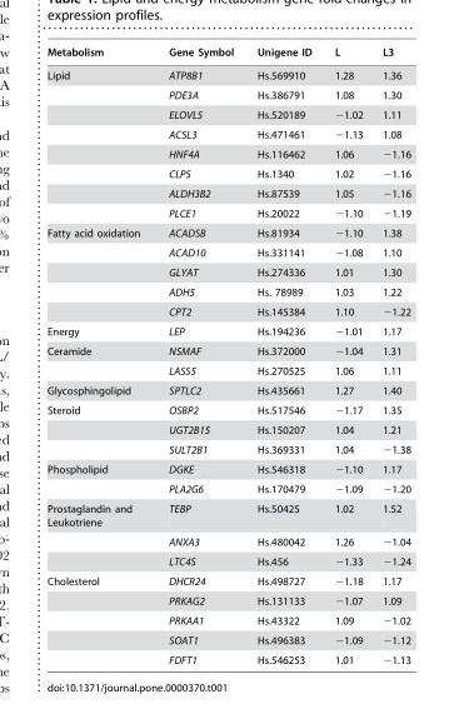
<table><thead><tr><td>Metabolism</td><td>Gene Symbol</td><td>Unigene ID</td><td>L</td><td>L3</td></tr></thead><tbody><tr><td rowspan="8">Lipid</td><td>ATP8B1</td><td>Hs.569910</td><td>1.28</td><td>1.36</td></tr><tr><td>PDE3A</td><td>Hs.386791</td><td>1.08</td><td>1.30</td></tr><tr><td>ELOVL5</td><td>Hs.520189</td><td>−1.02</td><td>1.11</td></tr><tr><td>ACSL3</td><td>Hs.471461</td><td>−1.13</td><td>1.08</td></tr><tr><td>HNF4A</td><td>Hs.116462</td><td>1.06</td><td>−1.16</td></tr><tr><td>CLPS</td><td>Hs.1340</td><td>1.02</td><td>−1.16</td></tr><tr><td>ALDH3B2</td><td>Hs.87539</td><td>1.05</td><td>−1.16</td></tr><tr><td>PLCE1</td><td>Hs.20022</td><td>−1.10</td><td>−1.19</td></tr><tr><td rowspan="5">Fatty acid oxidation</td><td>ACADSB</td><td>Hs.81934</td><td>−1.10</td><td>1.38</td></tr><tr><td>ACAD10</td><td>Hs.331141</td><td>−1.08</td><td>1.10</td></tr><tr><td>GLYAT</td><td>Hs.274336</td><td>1.01</td><td>1.30</td></tr><tr><td>ADH5</td><td>Hs. 78989</td><td>1.03</td><td>1.22</td></tr><tr><td>CPT2</td><td>Hs.145384</td><td>1.10</td><td>−1.22</td></tr><tr><td>Energy</td><td>LEP</td><td>Hs.194236</td><td>−1.01</td><td>1.17</td></tr><tr><td rowspan="2">Ceramide</td><td>NSMAF</td><td>Hs.372000</td><td>−1.04</td><td>1.31</td></tr><tr><td>LASS5</td><td>Hs.270525</td><td>1.06</td><td>1.11</td></tr><tr><td>Glycosphingolipid</td><td>SPTLC2</td><td>Hs.435661</td><td>1.27</td><td>1.40</td></tr><tr><td rowspan="3">Steroid</td><td>OSBP2</td><td>Hs.517546</td><td>−1.17</td><td>1.35</td></tr><tr><td>UGT2B15</td><td>Hs.150207</td><td>1.04</td><td>1.21</td></tr><tr><td>SULT2B1</td><td>Hs.369331</td><td>1.04</td><td>−1.38</td></tr><tr><td rowspan="2">Phospholipid</td><td>DGKE</td><td>Hs.546318</td><td>−1.10</td><td>1.17</td></tr><tr><td>PLA2G6</td><td>Hs.170479</td><td>−1.09</td><td>−1.20</td></tr><tr><td rowspan="3">Prostaglandin and Leukotriene</td><td>TEBP</td><td>Hs.50425</td><td>1.02</td><td>1.52</td></tr><tr><td>ANXA3</td><td>Hs.480042</td><td>1.26</td><td>−1.04</td></tr><tr><td>LTC4S</td><td>Hs.456</td><td>−1.33</td><td>−1.24</td></tr><tr><td rowspan="5">Cholesterol</td><td>DHCR24</td><td>Hs.498727</td><td>−1.18</td><td>1.17</td></tr><tr><td>PRKAG2</td><td>Hs.131133</td><td>−1.07</td><td>1.09</td></tr><tr><td>PRKAA1</td><td>Hs.43322</td><td>1.09</td><td>−1.02</td></tr><tr><td>SOAT1</td><td>Hs.496383</td><td>−1.09</td><td>−1.12</td></tr><tr><td>FDFT1</td><td>Hs.546253</td><td>1.01</td><td>−1.13</td></tr></tbody></table>